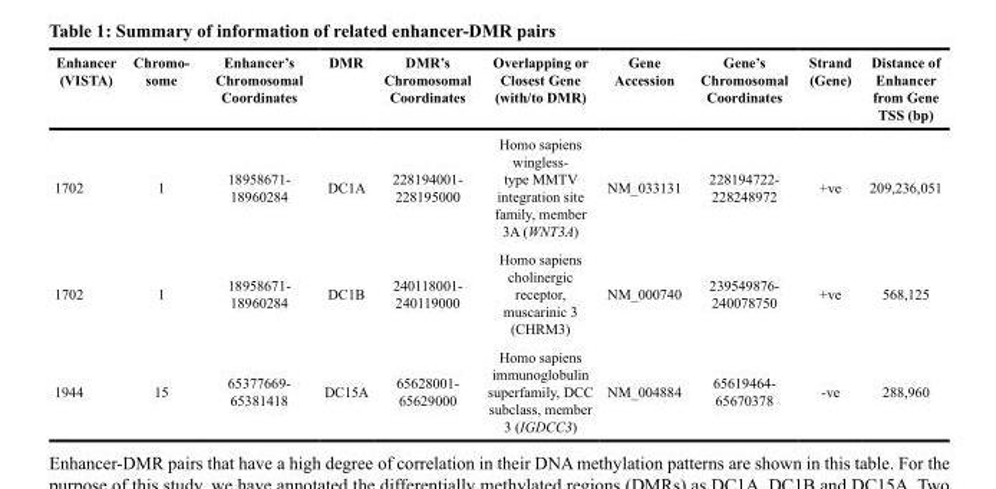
<table><thead><tr><td>Enhancer (VISTA)</td><td>Chromo- some</td><td>Enhancer’s Chromosomal Coordinates</td><td>DMR</td><td>DMR’s Chromosomal Coordinates</td><td>Overlapping or Closest Gene (with/to DMR)</td><td>Gene Accession</td><td>Gene’s Chromosomal Coordinates</td><td>Strand (Gene)</td><td>Distance of Enhancer from Gene TSS (bp)</td></tr></thead><tbody><tr><td>1702</td><td>1</td><td>18958671- 18960284</td><td>DC1A</td><td>228194001- 228195000</td><td>Homo sapiens wingless- type MMTV integration site family, member 3A (WNT3A)</td><td>NM_033131</td><td>228194722- 228248972</td><td>+ve</td><td>209,236,051</td></tr><tr><td>1702</td><td>1</td><td>18958671- 18960284</td><td>DC1B</td><td>240118001- 240119000</td><td>Homo sapiens cholinergic receptor, muscarinic 3 (CHRM3)</td><td>NM_000740</td><td>239549876- 240078750</td><td>+ve</td><td>568,125</td></tr><tr><td>1944</td><td>15</td><td>65377669- 65381418</td><td>DC15A</td><td>65628001- 65629000</td><td>Homo sapiens immunoglobulin superfamily, DCC subclass, member 3 (IGDCC3)</td><td>NM_004884</td><td>65619464- 65670378</td><td>-ve</td><td>288,960</td></tr></tbody></table>